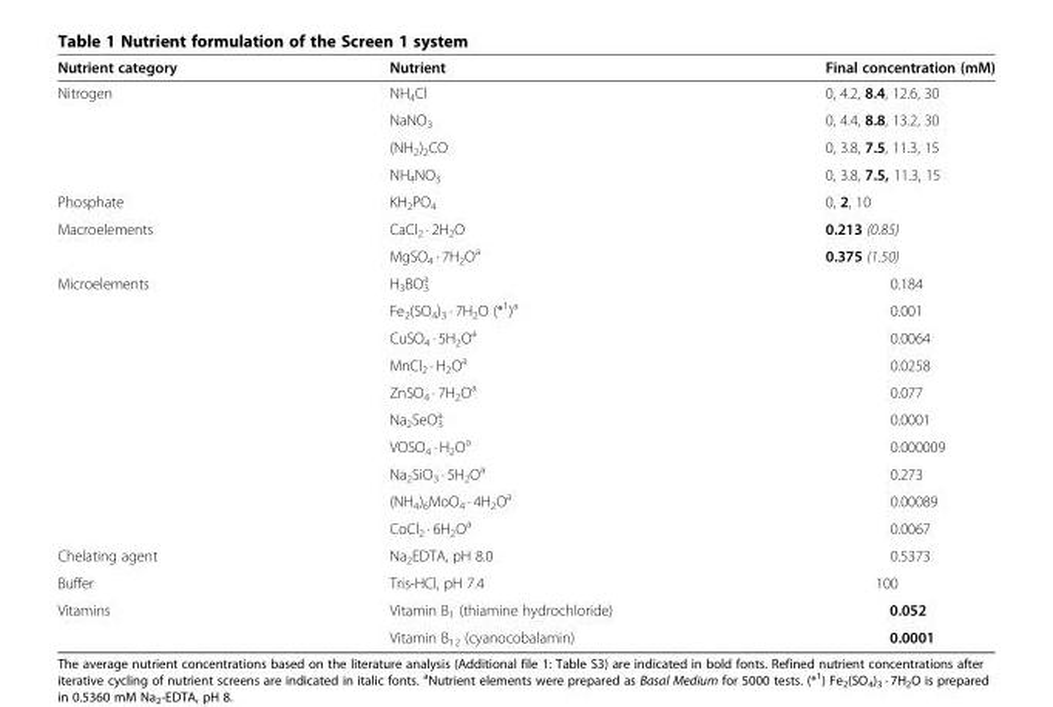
<table><thead><tr><td>Nutrient category</td><td>Nutrient</td><td>Final concentration (mM)</td></tr></thead><tbody><tr><td rowspan="4">Nitrogen</td><td>NH<sub>4</sub>Cl</td><td>0, 4.2, 8.4, 12.6, 30</td></tr><tr><td>NaNO<sub>3</sub></td><td>0, 4.4, 8.8, 13.2, 30</td></tr><tr><td>(NH<sub>2</sub>)<sub>2</sub>CO</td><td>0, 3.8, 7.5, 11.3, 15</td></tr><tr><td>NH<sub>4</sub>NO<sub>3</sub></td><td>0, 3.8, 7.5, 11.3, 15</td></tr><tr><td>Phosphate</td><td>KH<sub>2</sub>PO<sub>4</sub></td><td>0, 2, 10</td></tr><tr><td rowspan="2">Macroelements</td><td>CaCl<sub>2</sub> · 2H<sub>2</sub>O</td><td>0.213 (0.85)</td></tr><tr><td>MgSO<sub>4</sub> · 7H<sub>2</sub>O<sup>a</sup></td><td>0.375 (1.50)</td></tr><tr><td rowspan="10">Microelements</td><td>H<sub>3</sub>BO<sub>3</sub> <sup>a</sup></td><td>0.184</td></tr><tr><td>Fe<sub>2</sub>(SO<sub>4</sub>)<sub>3</sub> · 7H<sub>2</sub>O (*<sup>1</sup>)<sup>a</sup></td><td>0.001</td></tr><tr><td>CuSO<sub>4</sub> · 5H<sub>2</sub>O<sup>a</sup></td><td>0.0064</td></tr><tr><td>MnCl<sub>2</sub> · H<sub>2</sub>O<sup>a</sup></td><td>0.0258</td></tr><tr><td>ZnSO<sub>4</sub> · 7H<sub>2</sub>O<sup>a</sup></td><td>0.077</td></tr><tr><td>Na<sub>2</sub>SeO<sub>3</sub> <sup>a</sup></td><td>0.0001</td></tr><tr><td>VOSO<sub>4</sub> · H<sub>2</sub>O<sup>a</sup></td><td>0.000009</td></tr><tr><td>Na<sub>2</sub>SiO<sub>3</sub> · 5H<sub>2</sub>O<sup>a</sup></td><td>0.273</td></tr><tr><td>(NH<sub>4</sub>)<sub>6</sub>MoO<sub>4</sub> · 4H<sub>2</sub>O<sup>a</sup></td><td>0.00089</td></tr><tr><td>CoCl<sub>2</sub> · 6H<sub>2</sub>O<sup>a</sup></td><td>0.0067</td></tr><tr><td>Chelating agent</td><td>Na<sub>2</sub>EDTA, pH 8.0</td><td>0.5373</td></tr><tr><td>Buffer</td><td>Tris-HCl, pH 7.4</td><td>100</td></tr><tr><td rowspan="2">Vitamins</td><td>Vitamin B<sub>1</sub> (thiamine hydrochloride)</td><td>0.052</td></tr><tr><td>Vitamin B<sub>12</sub> (cyanocobalamin)</td><td>0.0001</td></tr></tbody></table>